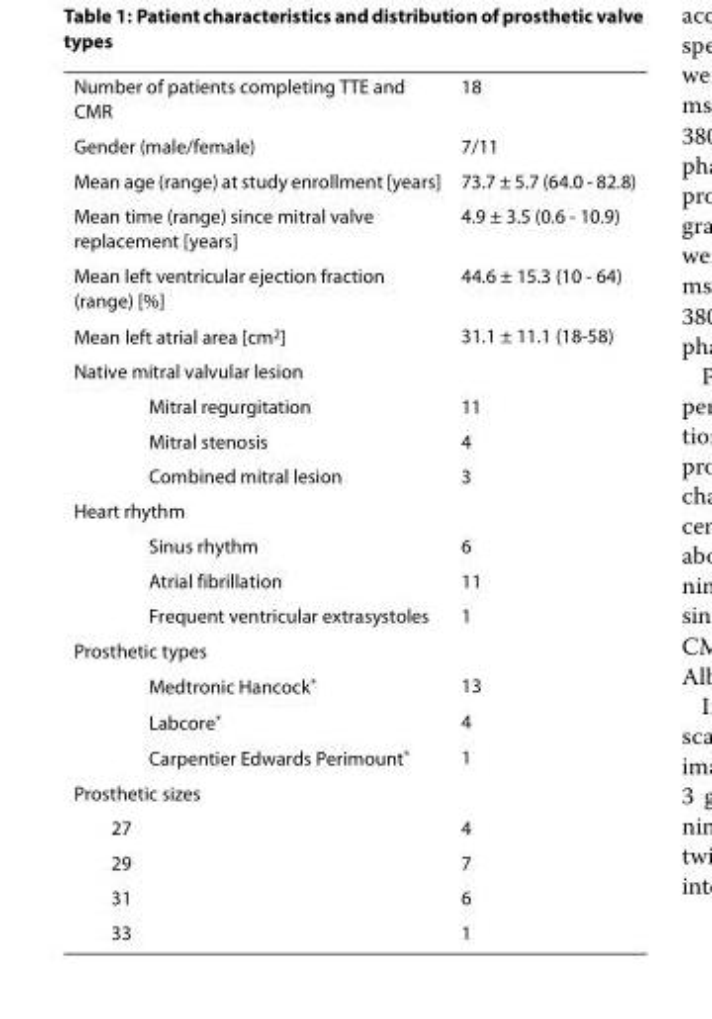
<table><tbody><tr><td>Number of patients completing TTE and CMR</td><td>18</td></tr><tr><td>Gender (male/female)</td><td>7/11</td></tr><tr><td>Mean age (range) at study enrollment [years]</td><td>73.7 ± 5.7 (64.0 - 82.8)</td></tr><tr><td>Mean time (range) since mitral valve replacement [years]</td><td>4.9 ± 3.5 (0.6 - 10.9)</td></tr><tr><td>Mean left ventricular ejection fraction (range) [%]</td><td>44.6 ± 15.3 (10 - 64)</td></tr><tr><td>Mean left atrial area [cm<sup>2</sup>]</td><td>31.1 ± 11.1 (18-58)</td></tr><tr><td colspan="2">Native mitral valvular lesion</td></tr><tr><td>Mitral regurgitation</td><td>11</td></tr><tr><td>Mitral stenosis</td><td>4</td></tr><tr><td>Combined mitral lesion</td><td>3</td></tr><tr><td colspan="2">Heart rhythm</td></tr><tr><td>Sinus rhythm</td><td>6</td></tr><tr><td>Atrial fibrillation</td><td>11</td></tr><tr><td>Frequent ventricular extrasystoles</td><td>1</td></tr><tr><td colspan="2">Prosthetic types</td></tr><tr><td>Medtronic Hancock<sup>®</sup></td><td>13</td></tr><tr><td>Labcore<sup>®</sup></td><td>4</td></tr><tr><td>Carpentier Edwards Perimount<sup>®</sup></td><td>1</td></tr><tr><td colspan="2">Prosthetic sizes</td></tr><tr><td>27</td><td>4</td></tr><tr><td>29</td><td>7</td></tr><tr><td>31</td><td>6</td></tr><tr><td>33</td><td>1</td></tr></tbody></table>